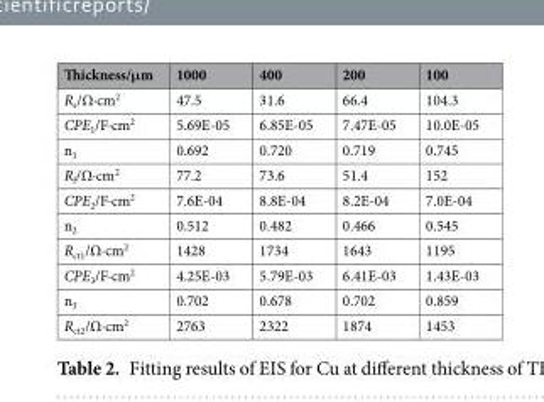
<table><thead><tr><td>Thickness/μm</td><td>1000</td><td>400</td><td>200</td><td>100</td></tr></thead><tbody><tr><td>R<sub>s</sub>/Ω·cm<sup>2</sup></td><td>47.5</td><td>31.6</td><td>66.4</td><td>104.3</td></tr><tr><td>CPE<sub>1</sub>/F·cm<sup>2</sup></td><td>5.69E-05</td><td>6.85E-05</td><td>7.47E-05</td><td>10.0E-05</td></tr><tr><td>n<sub>1</sub></td><td>0.692</td><td>0.720</td><td>0.719</td><td>0.745</td></tr><tr><td>R<sub>f</sub>/Ω·cm<sup>2</sup></td><td>77.2</td><td>73.6</td><td>51.4</td><td>152</td></tr><tr><td>CPE<sub>2</sub>/F·cm<sup>2</sup></td><td>7.6E-04</td><td>8.8E-04</td><td>8.2E-04</td><td>7.0E-04</td></tr><tr><td>n<sub>2</sub></td><td>0.512</td><td>0.482</td><td>0.466</td><td>0.545</td></tr><tr><td>R<sub>ct1</sub>/Ω·cm<sup>2</sup></td><td>1428</td><td>1734</td><td>1643</td><td>1195</td></tr><tr><td>CPE<sub>3</sub>/F·cm<sup>2</sup></td><td>4.25E-03</td><td>5.79E-03</td><td>6.41E-03</td><td>1.43E-03</td></tr><tr><td>n<sub>3</sub></td><td>0.702</td><td>0.678</td><td>0.702</td><td>0.859</td></tr><tr><td>R<sub>ct2</sub>/Ω·cm<sup>2</sup></td><td>2763</td><td>2322</td><td>1874</td><td>1453</td></tr></tbody></table>